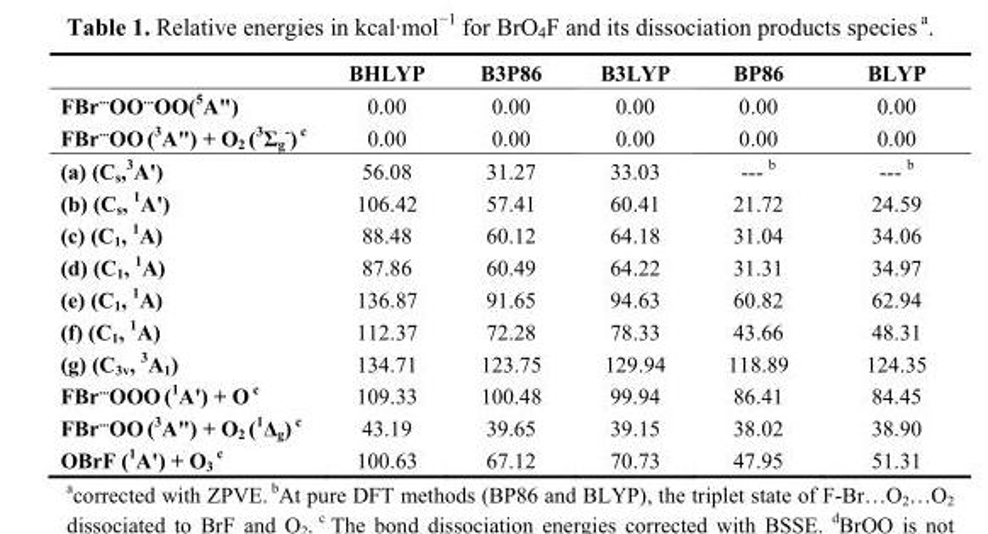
<table><thead><tr><td></td><td>BHLYP</td><td>B3P86</td><td>B3LYP</td><td>BP86</td><td>BLYP</td></tr></thead><tbody><tr><td>FBr...OO...OO(5A&quot;)</td><td>0.00</td><td>0.00</td><td>0.00</td><td>0.00</td><td>0.00</td></tr><tr><td>FBr...OO (3A&quot;) + O2 (3Σg -) c</td><td>0.00</td><td>0.00</td><td>0.00</td><td>0.00</td><td>0.00</td></tr><tr><td>(a) (C<sub>s</sub>,<sup>3</sup>A&#x27;)</td><td>56.08</td><td>31.27</td><td>33.03</td><td>--- b</td><td>--- b</td></tr><tr><td>(b) (C<sub>s</sub>, <sup>1</sup>A&#x27;)</td><td>106.42</td><td>57.41</td><td>60.41</td><td>21.72</td><td>24.59</td></tr><tr><td>(c) (C<sub>1</sub>, <sup>1</sup>A)</td><td>88.48</td><td>60.12</td><td>64.18</td><td>31.04</td><td>34.06</td></tr><tr><td>(d) (C<sub>1</sub>, <sup>1</sup>A)</td><td>87.86</td><td>60.49</td><td>64.22</td><td>31.31</td><td>34.97</td></tr><tr><td>(e) (C<sub>1</sub>, <sup>1</sup>A)</td><td>136.87</td><td>91.65</td><td>94.63</td><td>60.82</td><td>62.94</td></tr><tr><td>(f) (C<sub>1</sub>, <sup>1</sup>A)</td><td>112.37</td><td>72.28</td><td>78.33</td><td>43.66</td><td>48.31</td></tr><tr><td>(g) (C<sub>3v</sub>, <sup>3</sup>A<sub>1</sub>)</td><td>134.71</td><td>123.75</td><td>129.94</td><td>118.89</td><td>124.35</td></tr><tr><td>FBr<sup>...</sup>OOO (<sup>1</sup>A&#x27;) + O <sup>c</sup></td><td>109.33</td><td>100.48</td><td>99.94</td><td>86.41</td><td>84.45</td></tr><tr><td>FBr...OO (3A&quot;) + O2 (1Δg) c</td><td>43.19</td><td>39.65</td><td>39.15</td><td>38.02</td><td>38.90</td></tr><tr><td>OBrF (<sup>1</sup>A&#x27;) + O<sub>3</sub> <sup>c</sup></td><td>100.63</td><td>67.12</td><td>70.73</td><td>47.95</td><td>51.31</td></tr></tbody></table>